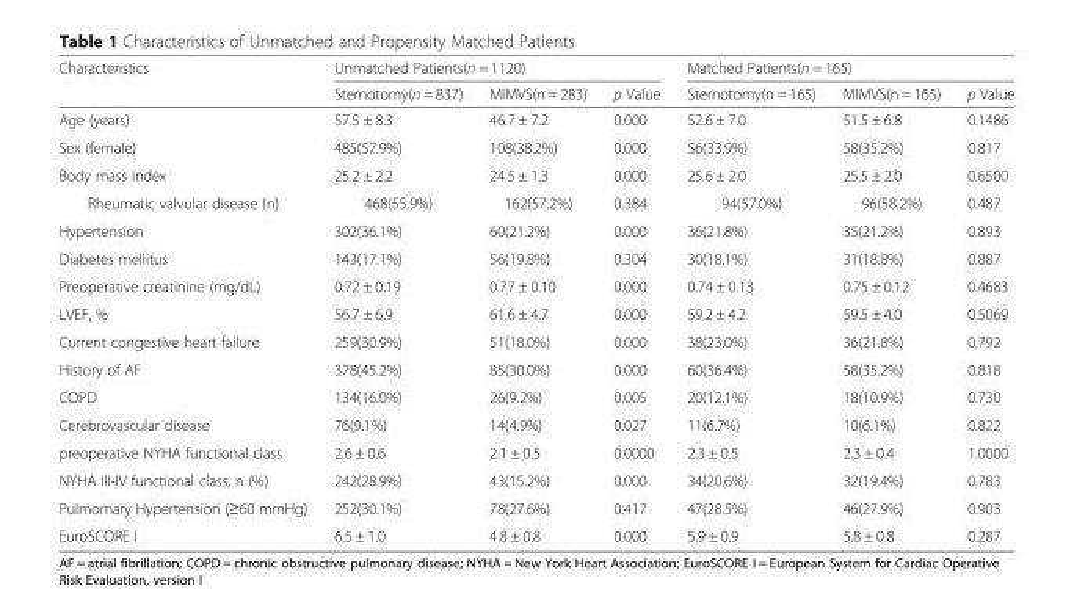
<table><thead><tr><td rowspan="2">Characteristics</td><td colspan="3">Unmatched Patients(n = 1120)</td><td colspan="3">Matched Patients(n = 165)</td></tr><tr><td>Sternotomy(n = 837)</td><td>MIMVS(n = 283)</td><td>p Value</td><td>Sternotomy(n = 165)</td><td>MIMVS(n = 165)</td><td>p Value</td></tr></thead><tbody><tr><td>Age (years)</td><td>57.5 ± 8.3</td><td>46.7 ± 7.2</td><td>0.000</td><td>52.6 ± 7.0</td><td>51.5 ± 6.8</td><td>0.1486</td></tr><tr><td>Sex (female)</td><td>485(57.9%)</td><td>108(38.2%)</td><td>0.000</td><td>56(33.9%)</td><td>58(35.2%)</td><td>0.817</td></tr><tr><td>Body mass index</td><td>25.2 ± 2.2</td><td>24.5 ± 1.3</td><td>0.000</td><td>25.6 ± 2.0</td><td>25.5 ± 2.0</td><td>0.6500</td></tr><tr><td>Rheumatic valvular disease (n)</td><td>468(55.9%)</td><td>162(57.2%)</td><td>0.384</td><td>94(57.0%)</td><td>96(58.2%)</td><td>0.487</td></tr><tr><td>Hypertension</td><td>302(36.1%)</td><td>60(21.2%)</td><td>0.000</td><td>36(21.8%)</td><td>35(21.2%)</td><td>0.893</td></tr><tr><td>Diabetes mellitus</td><td>143(17.1%)</td><td>56(19.8%)</td><td>0.304</td><td>30(18.1%)</td><td>31(18.8%)</td><td>0.887</td></tr><tr><td>Preoperative creatinine (mg/dL)</td><td>0.72 ± 0.19</td><td>0.77 ± 0.10</td><td>0.000</td><td>0.74 ± 0.13</td><td>0.75 ± 0.12</td><td>0.4683</td></tr><tr><td>LVEF, %</td><td>56.7 ± 6.9</td><td>61.6 ± 4.7</td><td>0.000</td><td>59.2 ± 4.2</td><td>59.5 ± 4.0</td><td>0.5069</td></tr><tr><td>Current congestive heart failure</td><td>259(30.9%)</td><td>51(18.0%)</td><td>0.000</td><td>38(23.0%)</td><td>36(21.8%)</td><td>0.792</td></tr><tr><td>History of AF</td><td>378(45.2%)</td><td>85(30.0%)</td><td>0.000</td><td>60(36.4%)</td><td>58(35.2%)</td><td>0.818</td></tr><tr><td>COPD</td><td>134(16.0%)</td><td>26(9.2%)</td><td>0.005</td><td>20(12.1%)</td><td>18(10.9%)</td><td>0.730</td></tr><tr><td>Cerebrovascular disease</td><td>76(9.1%)</td><td>14(4.9%)</td><td>0.027</td><td>11(6.7%)</td><td>10(6.1%)</td><td>0.822</td></tr><tr><td>preoperative NYHA functional class</td><td>2.6 ± 0.6</td><td>2.1 ± 0.5</td><td>0.0000</td><td>2.3 ± 0.5</td><td>2.3 ± 0.4</td><td>1.0000</td></tr><tr><td>NYHA III-IV functional class, n (%)</td><td>242(28.9%)</td><td>43(15.2%)</td><td>0.000</td><td>34(20.6%)</td><td>32(19.4%)</td><td>0.783</td></tr><tr><td>Pulmomary Hypertension (≥60 mmHg)</td><td>252(30.1%)</td><td>78(27.6%)</td><td>0.417</td><td>47(28.5%)</td><td>46(27.9%)</td><td>0.903</td></tr><tr><td>EuroSCORE I</td><td>6.5 ± 1.0</td><td>4.8 ± 0.8</td><td>0.000</td><td>5.9 ± 0.9</td><td>5.8 ± 0.8</td><td>0.287</td></tr></tbody></table>